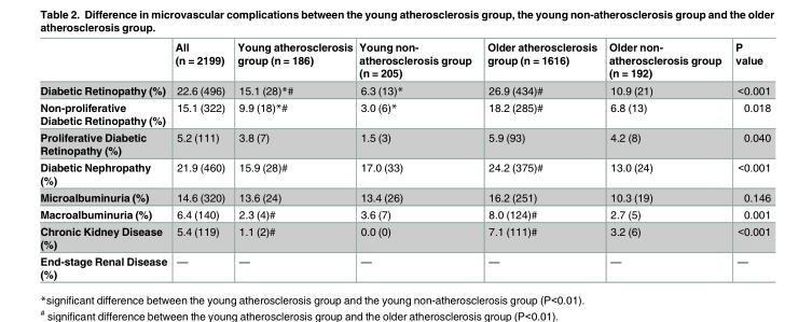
<table><thead><tr><td></td><td>All (n = 2199)</td><td>Young atherosclerosis group (n = 186)</td><td>Young non- atherosclerosis group (n = 205)</td><td>Older atherosclerosis group (n = 1616)</td><td>Older non- atherosclerosis group (n = 192)</td><td>P value</td></tr></thead><tbody><tr><td>Diabetic Retinopathy (%)</td><td>22.6 (496)</td><td>15.1 (28)*#</td><td>6.3 (13)*</td><td>26.9 (434)#</td><td>10.9 (21)</td><td>&lt;0.001</td></tr><tr><td>Non-proliferative Diabetic Retinopathy (%)</td><td>15.1 (322)</td><td>9.9 (18)*#</td><td>3.0 (6)*</td><td>18.2 (285)#</td><td>6.8 (13)</td><td>0.018</td></tr><tr><td>Proliferative Diabetic Retinopathy (%)</td><td>5.2 (111)</td><td>3.8 (7)</td><td>1.5 (3)</td><td>5.9 (93)</td><td>4.2 (8)</td><td>0.040</td></tr><tr><td>Diabetic Nephropathy (%)</td><td>21.9 (460)</td><td>15.9 (28)#</td><td>17.0 (33)</td><td>24.2 (375)#</td><td>13.0 (24)</td><td>&lt;0.001</td></tr><tr><td>Microalbuminuria (%)</td><td>14.6 (320)</td><td>13.6 (24)</td><td>13.4 (26)</td><td>16.2 (251)</td><td>10.3 (19)</td><td>0.146</td></tr><tr><td>Macroalbuminuria (%)</td><td>6.4 (140)</td><td>2.3 (4)#</td><td>3.6 (7)</td><td>8.0 (124)#</td><td>2.7 (5)</td><td>0.001</td></tr><tr><td>Chronic Kidney Disease (%)</td><td>5.4 (119)</td><td>1.1 (2)#</td><td>0.0 (0)</td><td>7.1 (111)#</td><td>3.2 (6)</td><td>&lt;0.001</td></tr><tr><td>End-stage Renal Disease (%)</td><td>—</td><td>—</td><td>—</td><td>—</td><td>—</td><td>—</td></tr></tbody></table>